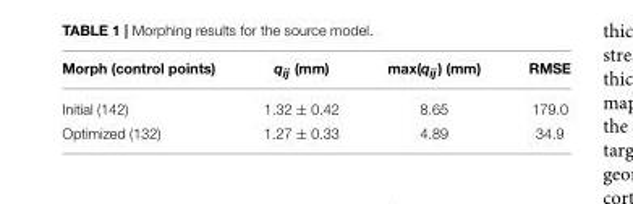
<table><thead><tr><td>Morph (control points)</td><td>qij (mm)</td><td>max(qij) (mm)</td><td>RMSE</td></tr></thead><tbody><tr><td>Initial (142)</td><td>1.32 ± 0.42</td><td>8.65</td><td>179.0</td></tr><tr><td>Optimized (132)</td><td>1.27 ± 0.33</td><td>4.89</td><td>34.9</td></tr></tbody></table>